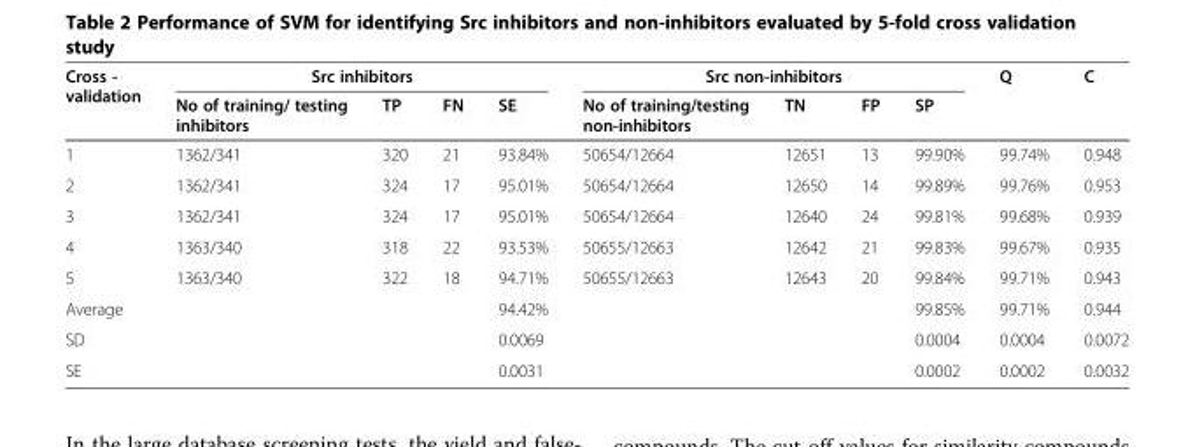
<table><thead><tr><td rowspan="2">Cross - validation</td><td colspan="4">Src inhibitors</td><td colspan="4">Src non-inhibitors</td><td rowspan="2">Q</td><td rowspan="2">C</td></tr><tr><td>No of training/ testing inhibitors</td><td>TP</td><td>FN</td><td>SE</td><td>No of training/testing non-inhibitors</td><td>TN</td><td>FP</td><td>SP</td></tr></thead><tbody><tr><td>1</td><td>1362/341</td><td>320</td><td>21</td><td>93.84%</td><td>50654/12664</td><td>12651</td><td>13</td><td>99.90%</td><td>99.74%</td><td>0.948</td></tr><tr><td>2</td><td>1362/341</td><td>324</td><td>17</td><td>95.01%</td><td>50654/12664</td><td>12650</td><td>14</td><td>99.89%</td><td>99.76%</td><td>0.953</td></tr><tr><td>3</td><td>1362/341</td><td>324</td><td>17</td><td>95.01%</td><td>50654/12664</td><td>12640</td><td>24</td><td>99.81%</td><td>99.68%</td><td>0.939</td></tr><tr><td>4</td><td>1363/340</td><td>318</td><td>22</td><td>93.53%</td><td>50655/12663</td><td>12642</td><td>21</td><td>99.83%</td><td>99.67%</td><td>0.935</td></tr><tr><td>5</td><td>1363/340</td><td>322</td><td>18</td><td>94.71%</td><td>50655/12663</td><td>12643</td><td>20</td><td>99.84%</td><td>99.71%</td><td>0.943</td></tr><tr><td>Average</td><td></td><td></td><td></td><td>94.42%</td><td></td><td></td><td></td><td>99.85%</td><td>99.71%</td><td>0.944</td></tr><tr><td>SD</td><td></td><td></td><td></td><td>0.0069</td><td></td><td></td><td></td><td>0.0004</td><td>0.0004</td><td>0.0072</td></tr><tr><td>SE</td><td></td><td></td><td></td><td>0.0031</td><td></td><td></td><td></td><td>0.0002</td><td>0.0002</td><td>0.0032</td></tr></tbody></table>